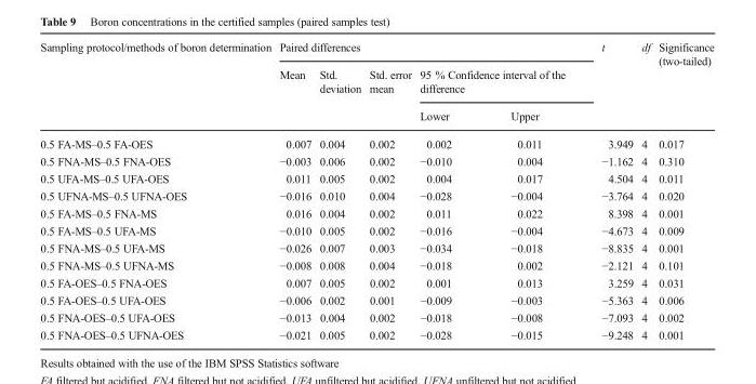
<table><thead><tr><td rowspan="3">Sampling protocol/methods of boron determination</td><td colspan="5">Paired differences</td><td rowspan="3">t</td><td rowspan="3">df</td><td rowspan="3">Significance (two-tailed)</td></tr><tr><td rowspan="2">Mean</td><td rowspan="2">Std. deviation</td><td rowspan="2">Std. error mean</td><td colspan="2">95 % Confidence interval of the difference</td></tr><tr><td>Lower</td><td>Upper</td></tr></thead><tbody><tr><td>0.5 FA-MS–0.5 FA-OES</td><td>0.007</td><td>0.004</td><td>0.002</td><td>0.002</td><td>0.011</td><td>3.949</td><td>4</td><td>0.017</td></tr><tr><td>0.5 FNA-MS–0.5 FNA-OES</td><td>−0.003</td><td>0.006</td><td>0.002</td><td>−0.010</td><td>0.004</td><td>−1.162</td><td>4</td><td>0.310</td></tr><tr><td>0.5 UFA-MS–0.5 UFA-OES</td><td>0.011</td><td>0.005</td><td>0.002</td><td>0.004</td><td>0.017</td><td>4.504</td><td>4</td><td>0.011</td></tr><tr><td>0.5 UFNA-MS–0.5 UFNA-OES</td><td>−0.016</td><td>0.010</td><td>0.004</td><td>−0.028</td><td>−0.004</td><td>−3.764</td><td>4</td><td>0.020</td></tr><tr><td>0.5 FA-MS–0.5 FNA-MS</td><td>0.016</td><td>0.004</td><td>0.002</td><td>0.011</td><td>0.022</td><td>8.398</td><td>4</td><td>0.001</td></tr><tr><td>0.5 FA-MS–0.5 UFA-MS</td><td>−0.010</td><td>0.005</td><td>0.002</td><td>−0.016</td><td>−0.004</td><td>−4.673</td><td>4</td><td>0.009</td></tr><tr><td>0.5 FNA-MS–0.5 UFA-MS</td><td>−0.026</td><td>0.007</td><td>0.003</td><td>−0.034</td><td>−0.018</td><td>−8.835</td><td>4</td><td>0.001</td></tr><tr><td>0.5 FNA-MS–0.5 UFNA-MS</td><td>−0.008</td><td>0.008</td><td>0.004</td><td>−0.018</td><td>0.002</td><td>−2.121</td><td>4</td><td>0.101</td></tr><tr><td>0.5 FA-OES–0.5 FNA-OES</td><td>0.007</td><td>0.005</td><td>0.002</td><td>0.001</td><td>0.013</td><td>3.259</td><td>4</td><td>0.031</td></tr><tr><td>0.5 FA-OES–0.5 UFA-OES</td><td>−0.006</td><td>0.002</td><td>0.001</td><td>−0.009</td><td>−0.003</td><td>−5.363</td><td>4</td><td>0.006</td></tr><tr><td>0.5 FNA-OES–0.5 UFA-OES</td><td>−0.013</td><td>0.004</td><td>0.002</td><td>−0.018</td><td>−0.008</td><td>−7.093</td><td>4</td><td>0.002</td></tr><tr><td>0.5 FNA-OES–0.5 UFNA-OES</td><td>−0.021</td><td>0.005</td><td>0.002</td><td>−0.028</td><td>−0.015</td><td>−9.248</td><td>4</td><td>0.001</td></tr></tbody></table>